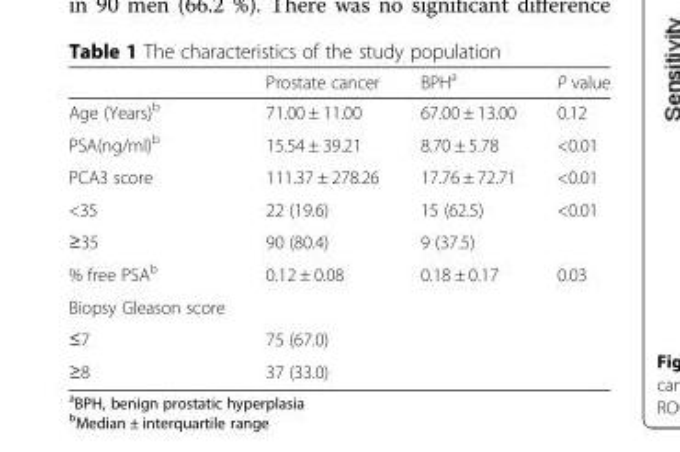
<table><thead><tr><td></td><td>Prostate cancer</td><td>BPH<sup>a</sup></td><td>P value</td></tr></thead><tbody><tr><td>Age (Years)<sup>b</sup></td><td>71.00 ± 11.00</td><td>67.00 ± 13.00</td><td>0.12</td></tr><tr><td>PSA(ng/ml)<sup>b</sup></td><td>15.54 ± 39.21</td><td>8.70 ± 5.78</td><td>&lt;0.01</td></tr><tr><td>PCA3 score</td><td>111.37 ± 278.26</td><td>17.76 ± 72.71</td><td>&lt;0.01</td></tr><tr><td>&lt;35</td><td>22 (19.6)</td><td>15 (62.5)</td><td rowspan="2">&lt;0.01</td></tr><tr><td>≥35</td><td>90 (80.4)</td><td>9 (37.5)</td></tr><tr><td>% free PSA<sup>b</sup></td><td>0.12 ± 0.08</td><td>0.18 ± 0.17</td><td>0.03</td></tr><tr><td colspan="4">Biopsy Gleason score</td></tr><tr><td>≤7</td><td>75 (67.0)</td><td></td><td></td></tr><tr><td>≥8</td><td>37 (33.0)</td><td></td><td></td></tr></tbody></table>